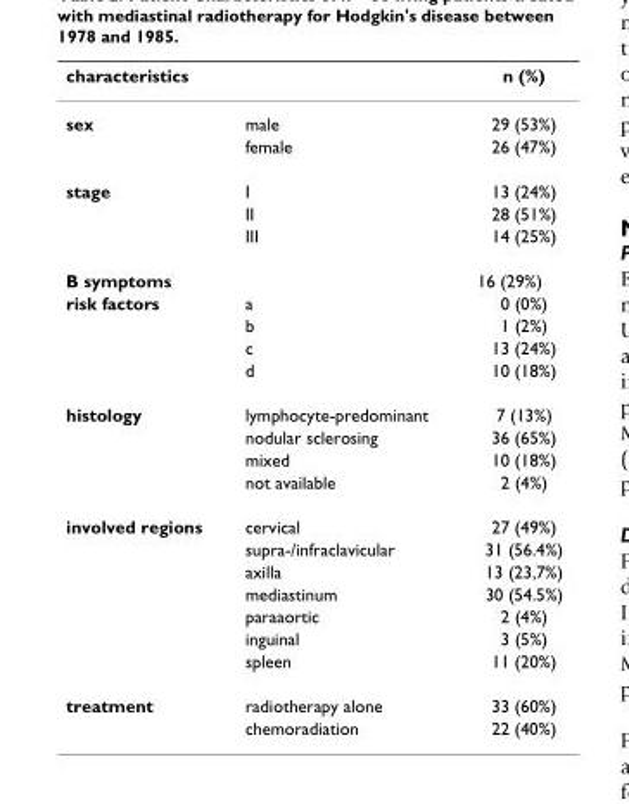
<table><thead><tr><td colspan="2">characteristics</td><td rowspan="2">n (%) 29 (53%)</td></tr><tr><td>sex</td><td>male</td></tr></thead><tbody><tr><td></td><td>female</td><td>26 (47%)</td></tr><tr><td rowspan="3">stage</td><td>I</td><td>13 (24%)</td></tr><tr><td>II</td><td>28 (51%)</td></tr><tr><td>III</td><td>14 (25%)</td></tr><tr><td colspan="2">B symptoms</td><td>16 (29%)</td></tr><tr><td rowspan="4">risk factors</td><td>a</td><td>0 (0%)</td></tr><tr><td>b</td><td>1 (2%)</td></tr><tr><td>c</td><td>13 (24%)</td></tr><tr><td>d</td><td>10 (18%)</td></tr><tr><td rowspan="4">histology</td><td>lymphocyte-predominant</td><td>7 (13%)</td></tr><tr><td>nodular sclerosing</td><td>36 (65%)</td></tr><tr><td>mixed</td><td>10 (18%)</td></tr><tr><td>not available</td><td>2 (4%)</td></tr><tr><td rowspan="7">involved regions</td><td>cervical</td><td>27 (49%)</td></tr><tr><td>supra-/infraclavicular</td><td>31 (56.4%)</td></tr><tr><td>axilla</td><td>13 (23,7%)</td></tr><tr><td>mediastinum</td><td>30 (54.5%)</td></tr><tr><td>paraaortic</td><td>2 (4%)</td></tr><tr><td>inguinal</td><td>3 (5%)</td></tr><tr><td>spleen</td><td>11 (20%)</td></tr><tr><td rowspan="2">treatment</td><td>radiotherapy alone</td><td>33 (60%)</td></tr><tr><td>chemoradiation</td><td>22 (40%)</td></tr></tbody></table>